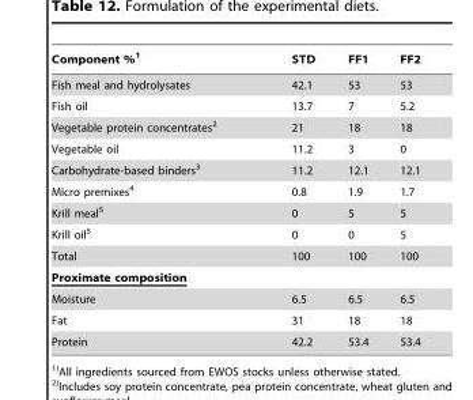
<table><thead><tr><td>Component %<sup>1</sup></td><td>STD</td><td>FF1</td><td>FF2</td></tr></thead><tbody><tr><td>Fish meal and hydrolysates</td><td>42.1</td><td>53</td><td>53</td></tr><tr><td>Fish oil</td><td>13.7</td><td>7</td><td>5.2</td></tr><tr><td>Vegetable protein concentrates<sup>2</sup></td><td>21</td><td>18</td><td>18</td></tr><tr><td>Vegetable oil</td><td>11.2</td><td>3</td><td>0</td></tr><tr><td>Carbohydrate-based binders<sup>3</sup></td><td>11.2</td><td>12.1</td><td>12.1</td></tr><tr><td>Micro premixes<sup>4</sup></td><td>0.8</td><td>1.9</td><td>1.7</td></tr><tr><td>Krill meal<sup>5</sup></td><td>0</td><td>5</td><td>5</td></tr><tr><td>Krill oil<sup>5</sup></td><td>0</td><td>0</td><td>5</td></tr><tr><td>Total</td><td>100</td><td>100</td><td>100</td></tr><tr><td colspan="4">Proximate composition</td></tr><tr><td>Moisture</td><td>6.5</td><td>6.5</td><td>6.5</td></tr><tr><td>Fat</td><td>31</td><td>18</td><td>18</td></tr><tr><td>Protein</td><td>42.2</td><td>53.4</td><td>53.4</td></tr></tbody></table>